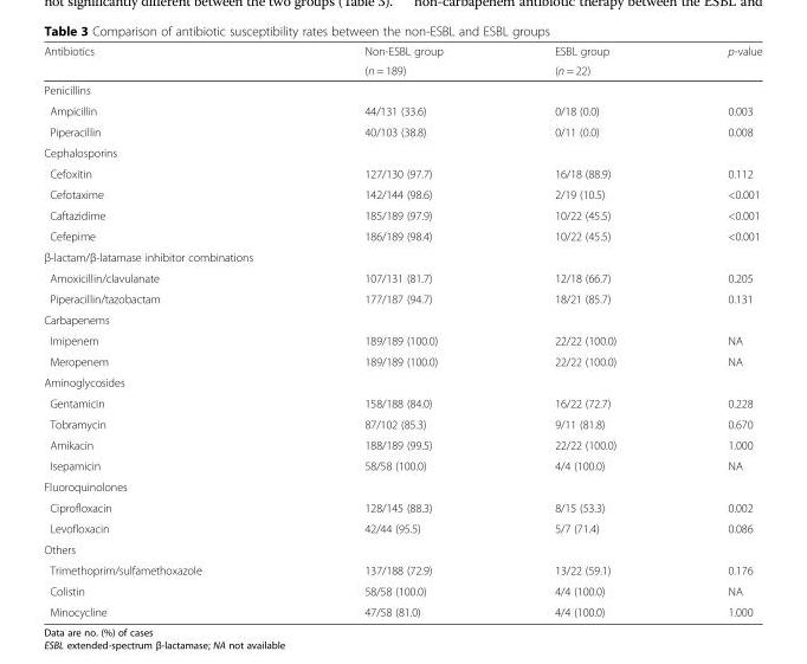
<table><thead><tr><td rowspan="2">Antibiotics</td><td rowspan="2">Non-ESBL group (n = 189)</td><td rowspan="2">ESBL group (n = 22)</td><td rowspan="2">p-value</td></tr><tr></tr></thead><tbody><tr><td colspan="4">Penicillins</td></tr><tr><td>Ampicillin</td><td>44/131 (33.6)</td><td>0/18 (0.0)</td><td>0.003</td></tr><tr><td>Piperacillin</td><td>40/103 (38.8)</td><td>0/11 (0.0)</td><td>0.008</td></tr><tr><td colspan="4">Cephalosporins</td></tr><tr><td>Cefoxitin</td><td>127/130 (97.7)</td><td>16/18 (88.9)</td><td>0.112</td></tr><tr><td>Cefotaxime</td><td>142/144 (98.6)</td><td>2/19 (10.5)</td><td>&lt;0.001</td></tr><tr><td>Caftazidime</td><td>185/189 (97.9)</td><td>10/22 (45.5)</td><td>&lt;0.001</td></tr><tr><td>Cefepime</td><td>186/189 (98.4)</td><td>10/22 (45.5)</td><td>&lt;0.001</td></tr><tr><td colspan="4">β-lactam/β-latamase inhibitor combinations</td></tr><tr><td>Amoxicillin/clavulanate</td><td>107/131 (81.7)</td><td>12/18 (66.7)</td><td>0.205</td></tr><tr><td>Piperacillin/tazobactam</td><td>177/187 (94.7)</td><td>18/21 (85.7)</td><td>0.131</td></tr><tr><td colspan="4">Carbapenems</td></tr><tr><td>Imipenem</td><td>189/189 (100.0)</td><td>22/22 (100.0)</td><td>NA</td></tr><tr><td>Meropenem</td><td>189/189 (100.0)</td><td>22/22 (100.0)</td><td>NA</td></tr><tr><td colspan="4">Aminoglycosides</td></tr><tr><td>Gentamicin</td><td>158/188 (84.0)</td><td>16/22 (72.7)</td><td>0.228</td></tr><tr><td>Tobramycin</td><td>87/102 (85.3)</td><td>9/11 (81.8)</td><td>0.670</td></tr><tr><td>Amikacin</td><td>188/189 (99.5)</td><td>22/22 (100.0)</td><td>1.000</td></tr><tr><td>Isepamicin</td><td>58/58 (100.0)</td><td>4/4 (100.0)</td><td>NA</td></tr><tr><td colspan="4">Fluoroquinolones</td></tr><tr><td>Ciprofloxacin</td><td>128/145 (88.3)</td><td>8/15 (53.3)</td><td>0.002</td></tr><tr><td>Levofloxacin</td><td>42/44 (95.5)</td><td>5/7 (71.4)</td><td>0.086</td></tr><tr><td colspan="4">Others</td></tr><tr><td>Trimethoprim/sulfamethoxazole</td><td>137/188 (72.9)</td><td>13/22 (59.1)</td><td>0.176</td></tr><tr><td>Colistin</td><td>58/58 (100.0)</td><td>4/4 (100.0)</td><td>NA</td></tr><tr><td>Minocycline</td><td>47/58 (81.0)</td><td>4/4 (100.0)</td><td>1.000</td></tr></tbody></table>